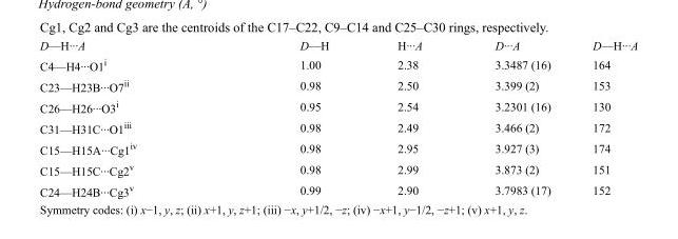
<table><tbody><tr><td>D—H···A</td><td>D—H</td><td>H···A</td><td>D···A</td><td>D—H···A</td></tr><tr><td>C4—H4···O1<sup>i</sup></td><td>1.00</td><td>2.38</td><td>3.3487 (16)</td><td>164</td></tr><tr><td>C23—H23B···O7<sup>ii</sup></td><td>0.98</td><td>2.50</td><td>3.399 (2)</td><td>153</td></tr><tr><td>C26—H26···O3<sup>i</sup></td><td>0.95</td><td>2.54</td><td>3.2301 (16)</td><td>130</td></tr><tr><td>C31—H31C···O1<sup>iii</sup></td><td>0.98</td><td>2.49</td><td>3.466 (2)</td><td>172</td></tr><tr><td>C15—H15A···Cg1<sup>iv</sup></td><td>0.98</td><td>2.95</td><td>3.927 (3)</td><td>174</td></tr><tr><td>C15—H15C···Cg2<sup>v</sup></td><td>0.98</td><td>2.99</td><td>3.873 (2)</td><td>151</td></tr><tr><td>C24—H24B···Cg3<sup>v</sup></td><td>0.99</td><td>2.90</td><td>3.7983 (17)</td><td>152</td></tr></tbody></table>